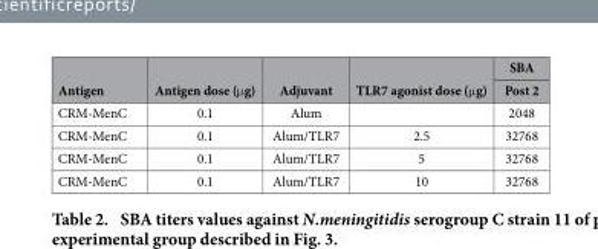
<table><thead><tr><td rowspan="2">Antigen</td><td rowspan="2">Antigen dose (μg)</td><td rowspan="2">Adjuvant</td><td rowspan="2">TLR7 agonist dose (μg)</td><td rowspan="2">SBA Post 2</td></tr><tr></tr></thead><tbody><tr><td>CRM-MenC</td><td>0.1</td><td>Alum</td><td></td><td>2048</td></tr><tr><td>CRM-MenC</td><td>0.1</td><td>Alum/TLR7</td><td>2.5</td><td>32768</td></tr><tr><td>CRM-MenC</td><td>0.1</td><td>Alum/TLR7</td><td>5</td><td>32768</td></tr><tr><td>CRM-MenC</td><td>0.1</td><td>Alum/TLR7</td><td>10</td><td>32768</td></tr></tbody></table>